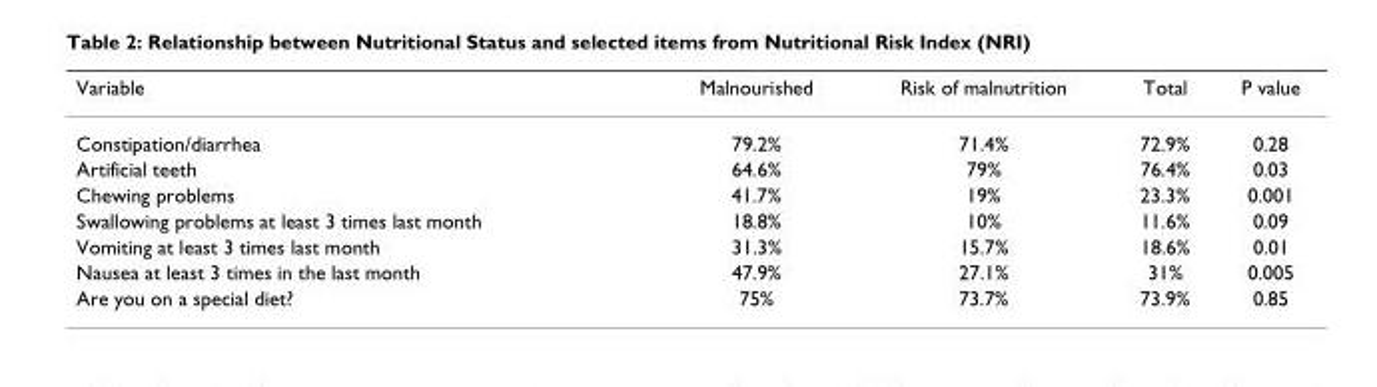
<table><thead><tr><td>Variable</td><td>Malnourished</td><td>Risk of malnutrition</td><td>Total</td><td>P value</td></tr></thead><tbody><tr><td>Constipation/diarrhea</td><td>79.2%</td><td>71.4%</td><td>72.9%</td><td>0.28</td></tr><tr><td>Artificial teeth</td><td>64.6%</td><td>79%</td><td>76.4%</td><td>0.03</td></tr><tr><td>Chewing problems</td><td>41.7%</td><td>19%</td><td>23.3%</td><td>0.001</td></tr><tr><td>Swallowing problems at least 3 times last month</td><td>18.8%</td><td>10%</td><td>11.6%</td><td>0.09</td></tr><tr><td>Vomiting at least 3 times last month</td><td>31.3%</td><td>15.7%</td><td>18.6%</td><td>0.01</td></tr><tr><td>Nausea at least 3 times in the last month</td><td>47.9%</td><td>27.1%</td><td>31%</td><td>0.005</td></tr><tr><td>Are you on a special diet?</td><td>75%</td><td>73.7%</td><td>73.9%</td><td>0.85</td></tr></tbody></table>